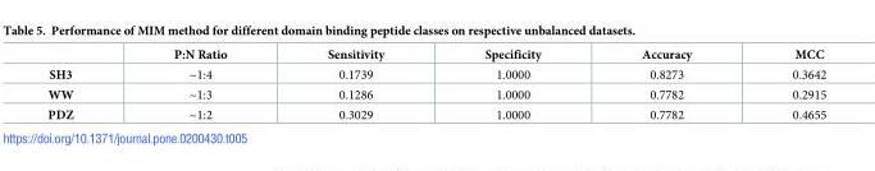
<table><thead><tr><td></td><td>P:N Ratio</td><td>Sensitivity</td><td>Specificity</td><td>Accuracy</td><td>MCC</td></tr></thead><tbody><tr><td>SH3</td><td>~1:4</td><td>0.1739</td><td>1.0000</td><td>0.8273</td><td>0.3642</td></tr><tr><td>WW</td><td>~1:3</td><td>0.1286</td><td>1.0000</td><td>0.7782</td><td>0.2915</td></tr><tr><td>PDZ</td><td>~1:2</td><td>0.3029</td><td>1.0000</td><td>0.7782</td><td>0.4655</td></tr></tbody></table>